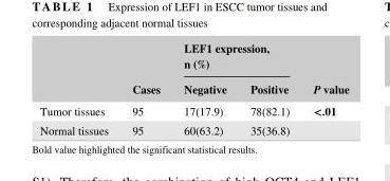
<table><thead><tr><td rowspan="2"></td><td rowspan="2">Cases</td><td colspan="2">LEF1 expression, n (%)</td><td rowspan="2">P value</td></tr><tr><td>Negative</td><td>Positive</td></tr></thead><tbody><tr><td>Tumor tissues</td><td>95</td><td>17(17.9)</td><td>78(82.1)</td><td>&lt;.01</td></tr><tr><td>Normal tissues</td><td>95</td><td>60(63.2)</td><td>35(36.8)</td><td></td></tr></tbody></table>